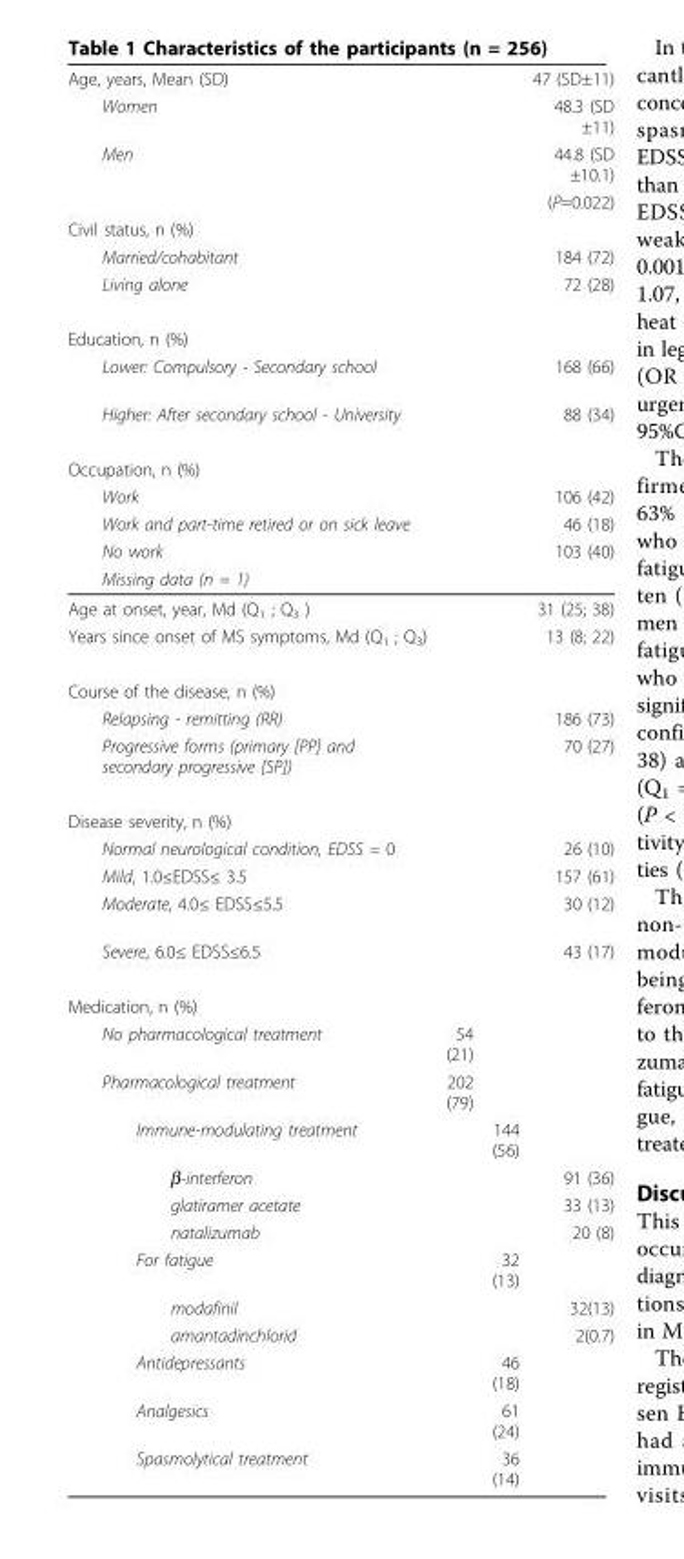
<table><thead><tr><td rowspan="15">Age, years, Mean (SD) Women Men Civil status, n (%) Married/cohabitant Living alone Education, n (%) Lower: Compulsory - Secondary school Higher: After secondary school - University Occupation, n (%) Work Work and part-time retired or on sick leave No work Missing data (n = 1)</td><td rowspan="15"></td><td rowspan="15"></td><td rowspan="15">47 (SD±11) 48.3 (SD ±11) 44.8 (SD ±10.1) (P=0.022) 184 (72) 72 (28) 168 (66) 88 (34) 106 (42) 46 (18) 103 (40)</td></tr><tr></tr><tr></tr><tr></tr><tr></tr><tr></tr><tr></tr><tr></tr><tr></tr><tr></tr><tr></tr><tr></tr><tr></tr><tr></tr><tr></tr></thead><tbody><tr><td>Age at onset, year, Md (Q<sub>1</sub> ; Q<sub>3</sub> )</td><td></td><td></td><td>31 (25; 38)</td></tr><tr><td>Years since onset of MS symptoms, Md (Q<sub>1</sub> ; Q<sub>3</sub>)</td><td></td><td></td><td>13 (8; 22)</td></tr><tr><td colspan="4">Course of the disease, n (%)</td></tr><tr><td>Relapsing - remitting (RR)</td><td></td><td></td><td>186 (73)</td></tr><tr><td>Progressive forms (primary [PP] and secondary progressive [SP])</td><td></td><td></td><td>70 (27)</td></tr><tr><td colspan="4">Disease severity, n (%)</td></tr><tr><td>Normal neurological condition, EDSS = 0</td><td></td><td></td><td>26 (10)</td></tr><tr><td>Mild, 1.0≤EDSS≤ 3.5</td><td></td><td></td><td>157 (61)</td></tr><tr><td>Moderate, 4.0≤ EDSS≤5.5</td><td></td><td></td><td>30 (12)</td></tr><tr><td>Severe, 6.0≤ EDSS≤6.5</td><td></td><td></td><td>43 (17)</td></tr><tr><td colspan="4">Medication, n (%)</td></tr><tr><td>No pharmacological treatment</td><td>54 (21)</td><td></td><td></td></tr><tr><td>Pharmacological treatment</td><td>202 (79)</td><td></td><td></td></tr><tr><td>Immune-modulating treatment</td><td></td><td>144 (56)</td><td></td></tr><tr><td>β-interferon</td><td></td><td></td><td>91 (36)</td></tr><tr><td>glatiramer acetate</td><td></td><td></td><td>33 (13)</td></tr><tr><td>natalizumab</td><td></td><td></td><td>20 (8)</td></tr><tr><td>For fatigue</td><td></td><td>32 (13)</td><td></td></tr><tr><td>modafinil</td><td></td><td></td><td>32(13)</td></tr><tr><td>amantadinchlorid</td><td></td><td></td><td>2(0.7)</td></tr><tr><td>Antidepressants</td><td></td><td>46 (18)</td><td></td></tr><tr><td>Analgesics</td><td></td><td>61 (24)</td><td></td></tr><tr><td>Spasmolytical treatment</td><td></td><td>36 (14)</td><td></td></tr></tbody></table>